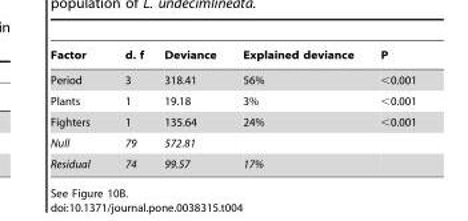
<table><thead><tr><td>Factor</td><td>d. f</td><td>Deviance</td><td>Explained deviance</td><td>P</td></tr></thead><tbody><tr><td>Period</td><td>3</td><td>318.41</td><td>56%</td><td>&lt;0.001</td></tr><tr><td>Plants</td><td>1</td><td>19.18</td><td>3%</td><td>&lt;0.001</td></tr><tr><td>Fighters</td><td>1</td><td>135.64</td><td>24%</td><td>&lt;0.001</td></tr><tr><td>Null</td><td>79</td><td>572.81</td><td></td><td></td></tr><tr><td>Residual</td><td>74</td><td>99.57</td><td>17%</td><td></td></tr></tbody></table>